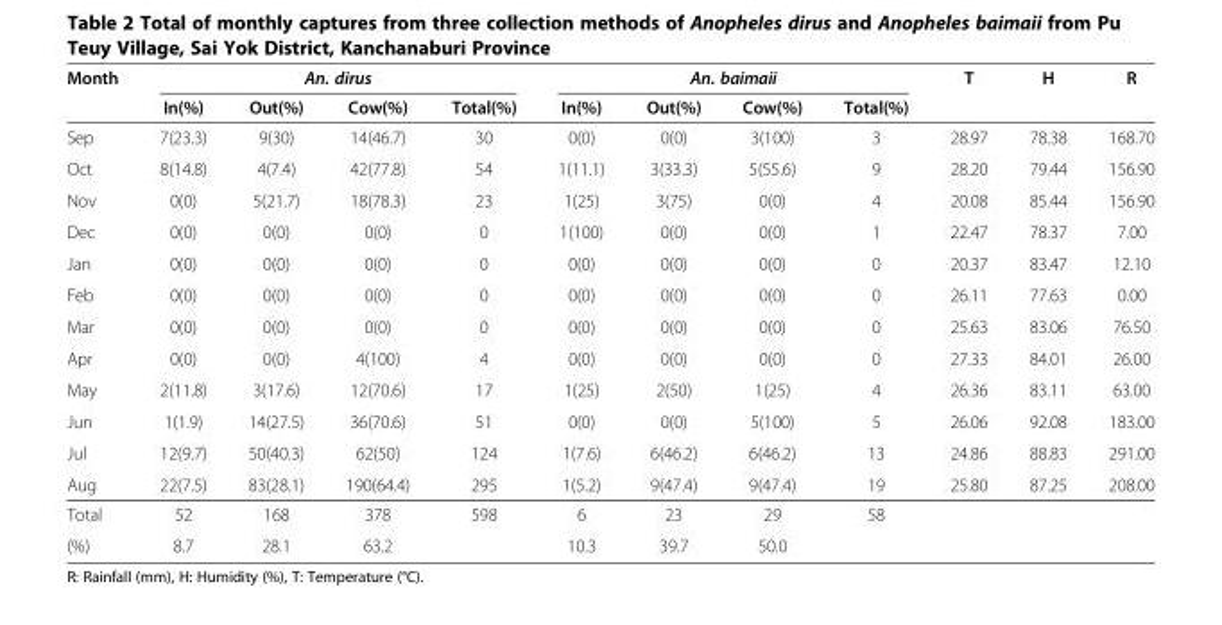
<table><thead><tr><td rowspan="2">Month</td><td colspan="4">An. dirus</td><td colspan="4">An. baimaii</td><td rowspan="2">T</td><td rowspan="2">H</td><td rowspan="2">R</td></tr><tr><td>In(%)</td><td>Out(%)</td><td>Cow(%)</td><td>Total(%)</td><td>In(%)</td><td>Out(%)</td><td>Cow(%)</td><td>Total(%)</td></tr></thead><tbody><tr><td>Sep</td><td>7(23.3)</td><td>9(30)</td><td>14(46.7)</td><td>30</td><td>0(0)</td><td>0(0)</td><td>3(100)</td><td>3</td><td>28.97</td><td>78.38</td><td>168.70</td></tr><tr><td>Oct</td><td>8(14.8)</td><td>4(7.4)</td><td>42(77.8)</td><td>54</td><td>1(11.1)</td><td>3(33.3)</td><td>5(55.6)</td><td>9</td><td>28.20</td><td>79.44</td><td>156.90</td></tr><tr><td>Nov</td><td>0(0)</td><td>5(21.7)</td><td>18(78.3)</td><td>23</td><td>1(25)</td><td>3(75)</td><td>0(0)</td><td>4</td><td>20.08</td><td>85.44</td><td>156.90</td></tr><tr><td>Dec</td><td>0(0)</td><td>0(0)</td><td>0(0)</td><td>0</td><td>1(100)</td><td>0(0)</td><td>0(0)</td><td>1</td><td>22.47</td><td>78.37</td><td>7.00</td></tr><tr><td>Jan</td><td>0(0)</td><td>0(0)</td><td>0(0)</td><td>0</td><td>0(0)</td><td>0(0)</td><td>0(0)</td><td>0</td><td>20.37</td><td>83.47</td><td>12.10</td></tr><tr><td>Feb</td><td>0(0)</td><td>0(0)</td><td>0(0)</td><td>0</td><td>0(0)</td><td>0(0)</td><td>0(0)</td><td>0</td><td>26.11</td><td>77.63</td><td>0.00</td></tr><tr><td>Mar</td><td>0(0)</td><td>0(0)</td><td>0(0)</td><td>0</td><td>0(0)</td><td>0(0)</td><td>0(0)</td><td>0</td><td>25.63</td><td>83.06</td><td>76.50</td></tr><tr><td>Apr</td><td>0(0)</td><td>0(0)</td><td>4(100)</td><td>4</td><td>0(0)</td><td>0(0)</td><td>0(0)</td><td>0</td><td>27.33</td><td>84.01</td><td>26.00</td></tr><tr><td>May</td><td>2(11.8)</td><td>3(17.6)</td><td>12(70.6)</td><td>17</td><td>1(25)</td><td>2(50)</td><td>1(25)</td><td>4</td><td>26.36</td><td>83.11</td><td>63.00</td></tr><tr><td>Jun</td><td>1(1.9)</td><td>14(27.5)</td><td>36(70.6)</td><td>51</td><td>0(0)</td><td>0(0)</td><td>5(100)</td><td>5</td><td>26.06</td><td>92.08</td><td>183.00</td></tr><tr><td>Jul</td><td>12(9.7)</td><td>50(40.3)</td><td>62(50)</td><td>124</td><td>1(7.6)</td><td>6(46.2)</td><td>6(46.2)</td><td>13</td><td>24.86</td><td>88.83</td><td>291.00</td></tr><tr><td>Aug</td><td>22(7.5)</td><td>83(28.1)</td><td>190(64.4)</td><td>295</td><td>1(5.2)</td><td>9(47.4)</td><td>9(47.4)</td><td>19</td><td>25.80</td><td>87.25</td><td>208.00</td></tr><tr><td>Total</td><td>52</td><td>168</td><td>378</td><td>598</td><td>6</td><td>23</td><td>29</td><td>58</td><td></td><td></td><td></td></tr><tr><td>(%)</td><td>8.7</td><td>28.1</td><td>63.2</td><td></td><td>10.3</td><td>39.7</td><td>50.0</td><td></td><td></td><td></td><td></td></tr></tbody></table>